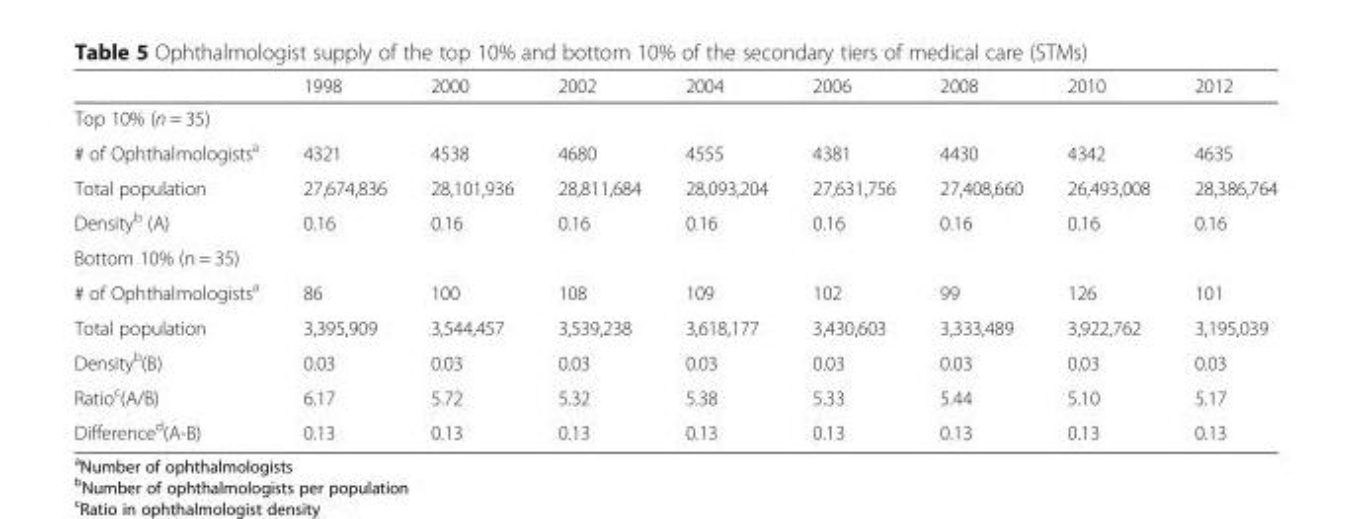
<table><thead><tr><td></td><td>1998</td><td>2000</td><td>2002</td><td>2004</td><td>2006</td><td>2008</td><td>2010</td><td>2012</td></tr></thead><tbody><tr><td colspan="9">Top 10% (n = 35)</td></tr><tr><td># of Ophthalmologists<sup>a</sup></td><td>4321</td><td>4538</td><td>4680</td><td>4555</td><td>4381</td><td>4430</td><td>4342</td><td>4635</td></tr><tr><td>Total population</td><td>27,674,836</td><td>28,101,936</td><td>28,811,684</td><td>28,093,204</td><td>27,631,756</td><td>27,408,660</td><td>26,493,008</td><td>28,386,764</td></tr><tr><td>Density<sup>b</sup> (A)</td><td>0.16</td><td>0.16</td><td>0.16</td><td>0.16</td><td>0.16</td><td>0.16</td><td>0.16</td><td>0.16</td></tr><tr><td colspan="9">Bottom 10% (n = 35)</td></tr><tr><td># of Ophthalmologists<sup>a</sup></td><td>86</td><td>100</td><td>108</td><td>109</td><td>102</td><td>99</td><td>126</td><td>101</td></tr><tr><td>Total population</td><td>3,395,909</td><td>3,544,457</td><td>3,539,238</td><td>3,618,177</td><td>3,430,603</td><td>3,333,489</td><td>3,922,762</td><td>3,195,039</td></tr><tr><td>Density<sup>b</sup>(B)</td><td>0.03</td><td>0.03</td><td>0.03</td><td>0.03</td><td>0.03</td><td>0.03</td><td>0.03</td><td>0.03</td></tr><tr><td>Ratio<sup>c</sup>(A/B)</td><td>6.17</td><td>5.72</td><td>5.32</td><td>5.38</td><td>5.33</td><td>5.44</td><td>5.10</td><td>5.17</td></tr><tr><td>Difference<sup>d</sup>(A-B)</td><td>0.13</td><td>0.13</td><td>0.13</td><td>0.13</td><td>0.13</td><td>0.13</td><td>0.13</td><td>0.13</td></tr></tbody></table>